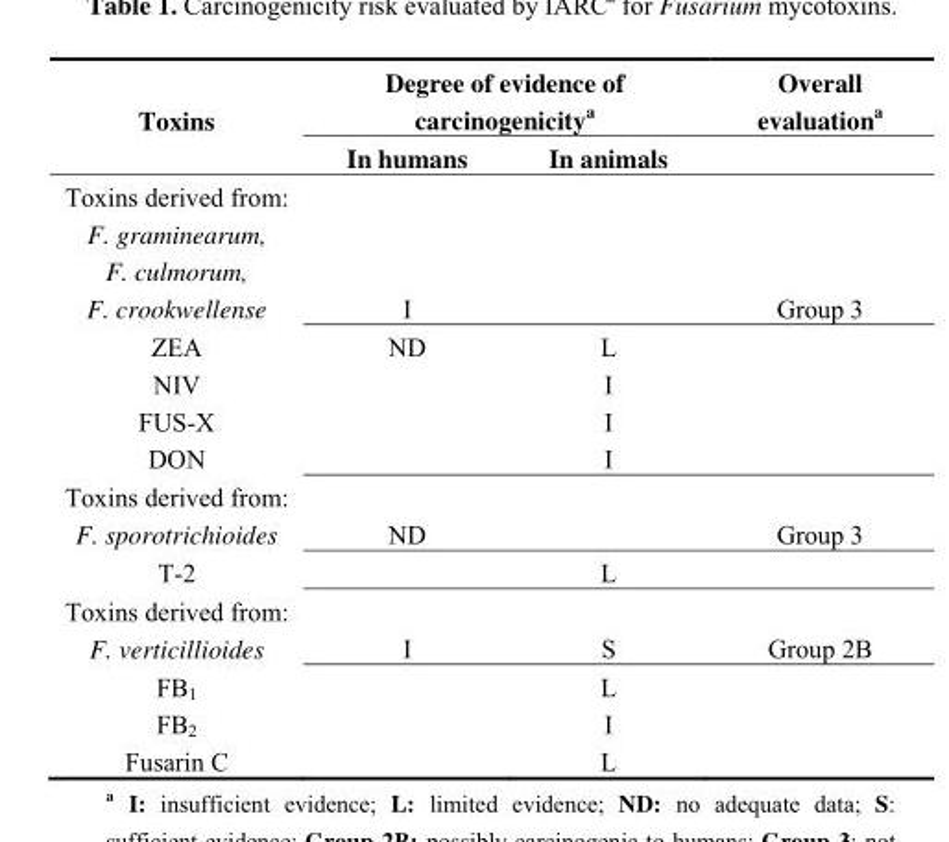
<table><thead><tr><td rowspan="2">Toxins</td><td colspan="2">Degree of evidence of carcinogenicity<sup>a</sup></td><td rowspan="2">Overall evaluation<sup>a</sup></td></tr><tr><td>In humans</td><td>In animals</td></tr></thead><tbody><tr><td colspan="4">Toxins derived from:</td></tr><tr><td colspan="4">F. graminearum,</td></tr><tr><td colspan="4">F. culmorum,</td></tr><tr><td>F. crookwellense</td><td>I</td><td></td><td>Group 3</td></tr><tr><td>ZEA</td><td>ND</td><td>L</td><td></td></tr><tr><td>NIV</td><td></td><td>I</td><td></td></tr><tr><td>FUS-X</td><td></td><td>I</td><td></td></tr><tr><td>DON</td><td></td><td>I</td><td></td></tr><tr><td colspan="4">Toxins derived from:</td></tr><tr><td>F. sporotrichioides</td><td>ND</td><td></td><td>Group 3</td></tr><tr><td>T-2</td><td></td><td>L</td><td></td></tr><tr><td colspan="4">Toxins derived from:</td></tr><tr><td>F. verticillioides</td><td>I</td><td>S</td><td>Group 2B</td></tr><tr><td>FB<sub>1</sub></td><td></td><td>L</td><td></td></tr><tr><td>FB<sub>2</sub></td><td></td><td>I</td><td></td></tr><tr><td>Fusarin C</td><td></td><td>L</td><td></td></tr></tbody></table>